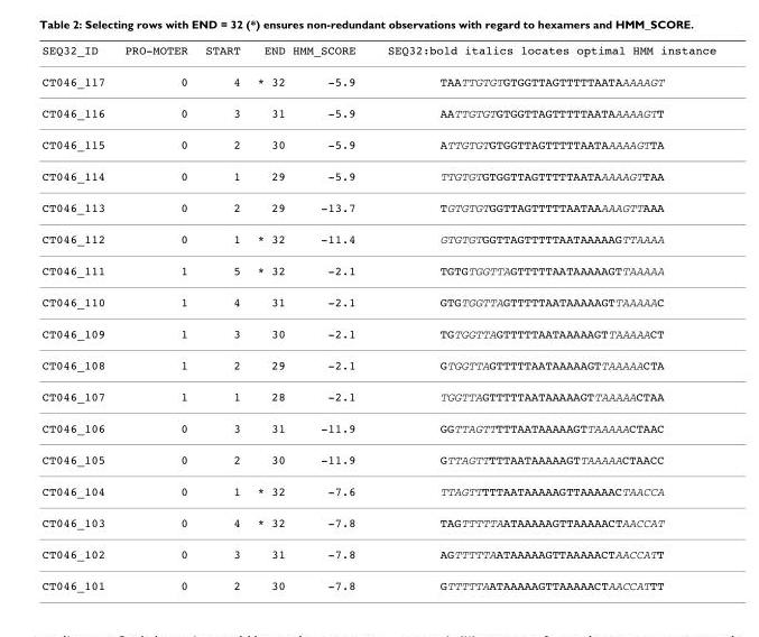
<table><thead><tr><td>SEQ32_ID</td><td>PRO-MOTER</td><td>START</td><td>END</td><td>HMM_SCORE</td><td>SEQ32:bold italics locates optimal HMM instance</td></tr></thead><tbody><tr><td>CT046_117</td><td>0</td><td>4</td><td>* 32</td><td>-5.9</td><td>TAATTGTGTGTGGTTAGTTTTTAATAAAAAGT</td></tr><tr><td>CT046_116</td><td>0</td><td>3</td><td>31</td><td>-5.9</td><td>AATTGTGTGTGGTTAGTTTTTAATAAAAAGTT</td></tr><tr><td>CT046_115</td><td>0</td><td>2</td><td>30</td><td>-5.9</td><td>ATTGTGTGTGGTTAGTTTTTAATAAAAAGTTA</td></tr><tr><td>CT046_114</td><td>0</td><td>1</td><td>29</td><td>-5.9</td><td>TTGTGTGTGGTTAGTTTTTAATAAAAAGTTAA</td></tr><tr><td>CT046_113</td><td>0</td><td>2</td><td>29</td><td>-13.7</td><td>TGTGTGTGGTTAGTTTTTAATAAAAAGTTAAA</td></tr><tr><td>CT046_112</td><td>0</td><td>1</td><td>* 32</td><td>-11.4</td><td>GTGTGTGGTTAGTTTTTAATAAAAAGTTAAAA</td></tr><tr><td>CT046_111</td><td>1</td><td>5</td><td>* 32</td><td>-2.1</td><td>TGTGTGGTTAGTTTTTAATAAAAAGTTAAAAA</td></tr><tr><td>CT046_110</td><td>1</td><td>4</td><td>31</td><td>-2.1</td><td>GTGTGGTTAGTTTTTAATAAAAAGTTAAAAAC</td></tr><tr><td>CT046_109</td><td>1</td><td>3</td><td>30</td><td>-2.1</td><td>TGTGGTTAGTTTTTAATAAAAAGTTAAAAACT</td></tr><tr><td>CT046_108</td><td>1</td><td>2</td><td>29</td><td>-2.1</td><td>GTGGTTAGTTTTTAATAAAAAGTTAAAAACTA</td></tr><tr><td>CT046_107</td><td>1</td><td>1</td><td>28</td><td>-2.1</td><td>TGGTTAGTTTTTAATAAAAAGTTAAAAACTAA</td></tr><tr><td>CT046_106</td><td>0</td><td>3</td><td>31</td><td>-11.9</td><td>GGTTAGTTTTTAATAAAAAGTTAAAAACTAAC</td></tr><tr><td>CT046_105</td><td>0</td><td>2</td><td>30</td><td>-11.9</td><td>GTTAGTTTTTAATAAAAAGTTAAAAACTAACC</td></tr><tr><td>CT046_104</td><td>0</td><td>1</td><td>* 32</td><td>-7.6</td><td>TTAGTTTTTAATAAAAAGTTAAAAACTAACCA</td></tr><tr><td>CT046_103</td><td>0</td><td>4</td><td>* 32</td><td>-7.8</td><td>TAGTTTTTAATAAAAAGTTAAAAACTAACCAT</td></tr><tr><td>CT046_102</td><td>0</td><td>3</td><td>31</td><td>-7.8</td><td>AGTTTTTAATAAAAAGTTAAAAACTAACCATT</td></tr><tr><td>CT046_101</td><td>0</td><td>2</td><td>30</td><td>-7.8</td><td>GTTTTTAATAAAAAGTTAAAAACTAACCATTT</td></tr></tbody></table>